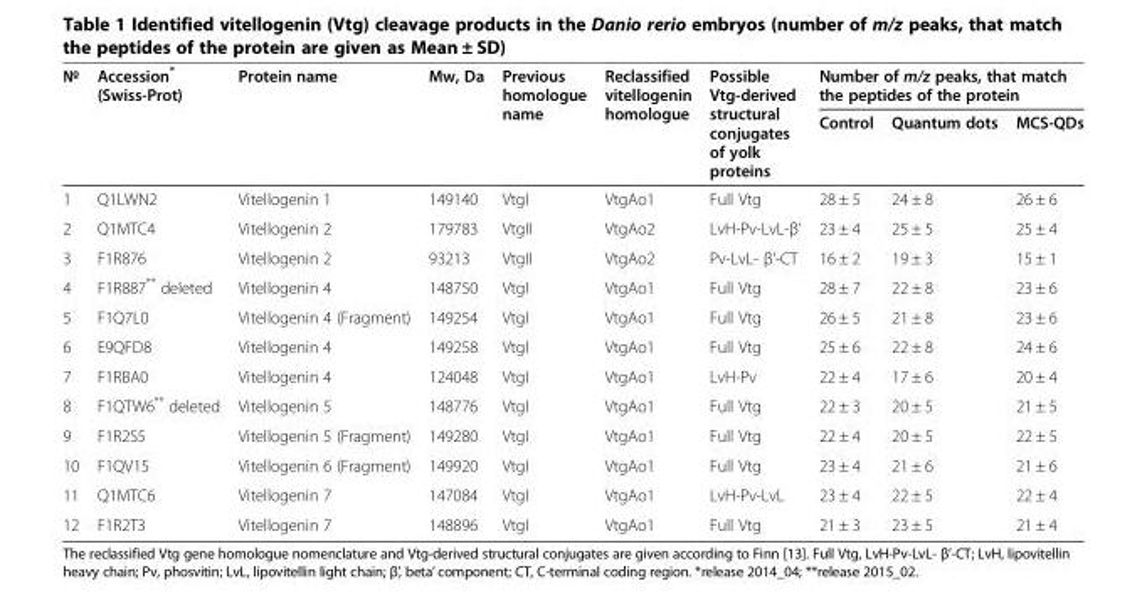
<table><thead><tr><td rowspan="2">№</td><td rowspan="2">Accession* (Swiss-Prot)</td><td rowspan="2">Protein name</td><td rowspan="2">Mw, Da</td><td rowspan="2">Previous homologue name</td><td rowspan="2">Reclassified vitellogenin homologue</td><td rowspan="2">Possible Vtg-derived structural conjugates of yolk proteins</td><td colspan="3">Number of m/z peaks, that match the peptides of the protein</td></tr><tr><td>Control</td><td>Quantum dots</td><td>MCS-QDs</td></tr></thead><tbody><tr><td>1</td><td>Q1LWN2</td><td>Vitellogenin 1</td><td>149140</td><td>VtgI</td><td>VtgAo1</td><td>Full Vtg</td><td>28 ± 5</td><td>24 ± 8</td><td>26 ± 6</td></tr><tr><td>2</td><td>Q1MTC4</td><td>Vitellogenin 2</td><td>179783</td><td>VtgII</td><td>VtgAo2</td><td>LvH-Pv-LvL-β’</td><td>23 ± 4</td><td>25 ± 5</td><td>25 ± 4</td></tr><tr><td>3</td><td>F1R876</td><td>Vitellogenin 2</td><td>93213</td><td>VtgII</td><td>VtgAo2</td><td>Pv-LvL- β’-CT</td><td>16 ± 2</td><td>19 ± 3</td><td>15 ± 1</td></tr><tr><td>4</td><td>F1R887** deleted</td><td>Vitellogenin 4</td><td>148750</td><td>VtgI</td><td>VtgAo1</td><td>Full Vtg</td><td>28 ± 7</td><td>22 ± 8</td><td>23 ± 6</td></tr><tr><td>5</td><td>F1Q7L0</td><td>Vitellogenin 4 (Fragment)</td><td>149254</td><td>VtgI</td><td>VtgAo1</td><td>Full Vtg</td><td>26 ± 5</td><td>21 ± 8</td><td>23 ± 6</td></tr><tr><td>6</td><td>E9QFD8</td><td>Vitellogenin 4</td><td>149258</td><td>VtgI</td><td>VtgAo1</td><td>Full Vtg</td><td>25 ± 6</td><td>22 ± 8</td><td>24 ± 6</td></tr><tr><td>7</td><td>F1RBA0</td><td>Vitellogenin 4</td><td>124048</td><td>VtgI</td><td>VtgAo1</td><td>LvH-Pv</td><td>22 ± 4</td><td>17 ± 6</td><td>20 ± 4</td></tr><tr><td>8</td><td>F1QTW6** deleted</td><td>Vitellogenin 5</td><td>148776</td><td>VtgI</td><td>VtgAo1</td><td>Full Vtg</td><td>22 ± 3</td><td>20 ± 5</td><td>21 ± 5</td></tr><tr><td>9</td><td>F1R2S5</td><td>Vitellogenin 5 (Fragment)</td><td>149280</td><td>VtgI</td><td>VtgAo1</td><td>Full Vtg</td><td>22 ± 4</td><td>20 ± 5</td><td>22 ± 5</td></tr><tr><td>10</td><td>F1QV15</td><td>Vitellogenin 6 (Fragment)</td><td>149920</td><td>VtgI</td><td>VtgAo1</td><td>Full Vtg</td><td>23 ± 4</td><td>21 ± 6</td><td>21 ± 6</td></tr><tr><td>11</td><td>Q1MTC6</td><td>Vitellogenin 7</td><td>147084</td><td>VtgI</td><td>VtgAo1</td><td>LvH-Pv-LvL</td><td>23 ± 4</td><td>22 ± 5</td><td>22 ± 4</td></tr><tr><td>12</td><td>F1R2T3</td><td>Vitellogenin 7</td><td>148896</td><td>VtgI</td><td>VtgAo1</td><td>Full Vtg</td><td>21 ± 3</td><td>23 ± 5</td><td>21 ± 4</td></tr></tbody></table>